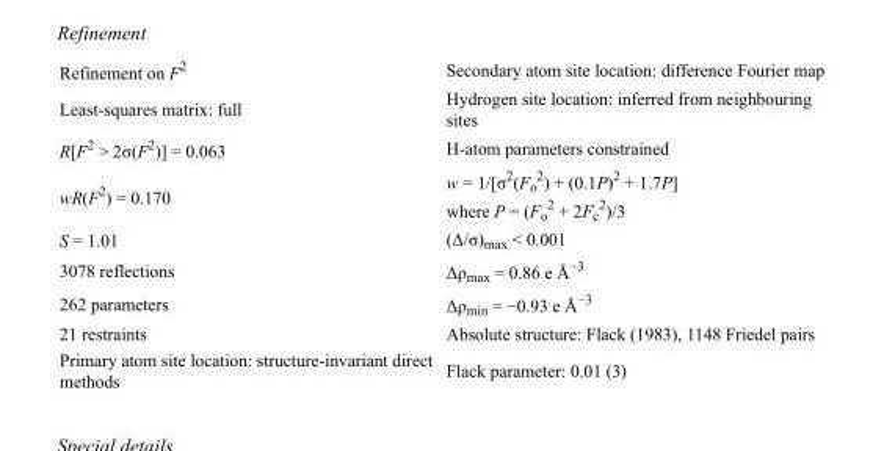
<table><tbody><tr><td>Refinement on F<sup>2</sup></td><td>Secondary atom site location: difference Fourier map</td></tr><tr><td>Least-squares matrix: full</td><td>Hydrogen site location: inferred from neighbouring sites</td></tr><tr><td>R[F<sup>2</sup> &gt; 2σ(F<sup>2</sup>)] = 0.063</td><td>H-atom parameters constrained</td></tr><tr><td>wR(F<sup>2</sup>) = 0.170</td><td>w = 1/[σ<sup>2</sup>(F<sub>o</sub> <sup>2</sup>) + (0.1P)<sup>2</sup> + 1.7P] where P = (F<sub>o</sub> <sup>2</sup> + 2F<sub>c</sub> <sup>2</sup>)/3</td></tr><tr><td>S = 1.01</td><td>(Δ/σ)<sub>max</sub> &lt; 0.001</td></tr><tr><td>3078 reflections</td><td>Δρ<sub>max</sub> = 0.86 e Å<sup>−3</sup></td></tr><tr><td>262 parameters</td><td>Δρ<sub>min</sub> = −0.93 e Å<sup>−3</sup></td></tr><tr><td>21 restraints</td><td>Absolute structure: Flack (1983), 1148 Friedel pairs</td></tr><tr><td>Primary atom site location: structure-invariant direct methods</td><td>Flack parameter: 0.01 (3)</td></tr></tbody></table>